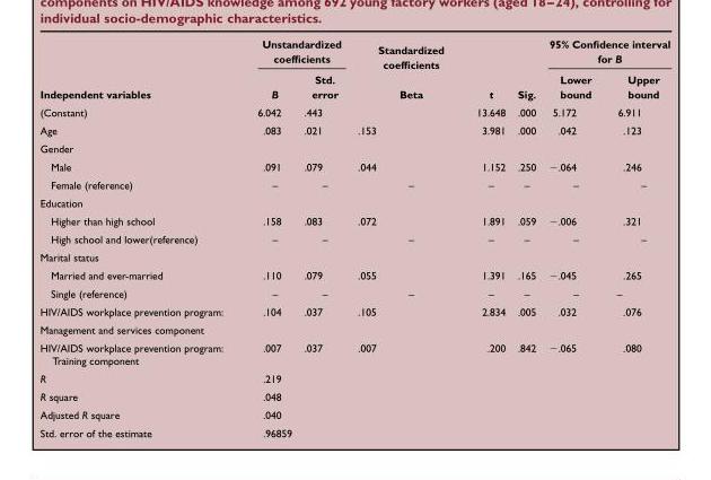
<table><thead><tr><td rowspan="2">Independent variables</td><td colspan="2">Unstandardized coefficients</td><td rowspan="2">Standardized coefficients Beta</td><td rowspan="2">t</td><td rowspan="2">Sig.</td><td colspan="2">95% Confidence interval for B</td></tr><tr><td>B</td><td>Std. error</td><td>Lower bound</td><td>Upper bound</td></tr></thead><tbody><tr><td>(Constant)</td><td>6.042</td><td>.443</td><td></td><td>13.648</td><td>.000</td><td>5.172</td><td>6.911</td></tr><tr><td>Age</td><td>.083</td><td>.021</td><td>.153</td><td>3.981</td><td>.000</td><td>.042</td><td>.123</td></tr><tr><td colspan="8">Gender</td></tr><tr><td>Male</td><td>.091</td><td>.079</td><td>.044</td><td>1.152</td><td>.250</td><td>−.064</td><td>.246</td></tr><tr><td>Female (reference)</td><td>–</td><td>–</td><td>–</td><td>–</td><td>–</td><td>–</td><td>–</td></tr><tr><td colspan="8">Education</td></tr><tr><td>Higher than high school</td><td>.158</td><td>.083</td><td>.072</td><td>1.891</td><td>.059</td><td>−.006</td><td>.321</td></tr><tr><td>High school and lower(reference)</td><td>–</td><td>–</td><td>–</td><td>–</td><td>–</td><td>–</td><td>–</td></tr><tr><td colspan="8">Marital status</td></tr><tr><td>Married and ever-married</td><td>.110</td><td>.079</td><td>.055</td><td>1.391</td><td>.165</td><td>−.045</td><td>.265</td></tr><tr><td>Single (reference)</td><td>–</td><td>–</td><td>–</td><td>–</td><td>–</td><td>–</td><td>–</td></tr><tr><td>HIV/AIDS workplace prevention program:</td><td>.104</td><td>.037</td><td>.105</td><td>2.834</td><td>.005</td><td>.032</td><td>.076</td></tr><tr><td colspan="8">Management and services component</td></tr><tr><td>HIV/AIDS workplace prevention program: Training component</td><td>.007</td><td>.037</td><td>.007</td><td>.200</td><td>.842</td><td>−.065</td><td>.080</td></tr><tr><td>R</td><td>.219</td><td></td><td></td><td></td><td></td><td></td><td></td></tr><tr><td>R square</td><td>.048</td><td></td><td></td><td></td><td></td><td></td><td></td></tr><tr><td>Adjusted R square</td><td>.040</td><td></td><td></td><td></td><td></td><td></td><td></td></tr><tr><td>Std. error of the estimate</td><td>.96859</td><td></td><td></td><td></td><td></td><td></td><td></td></tr></tbody></table>